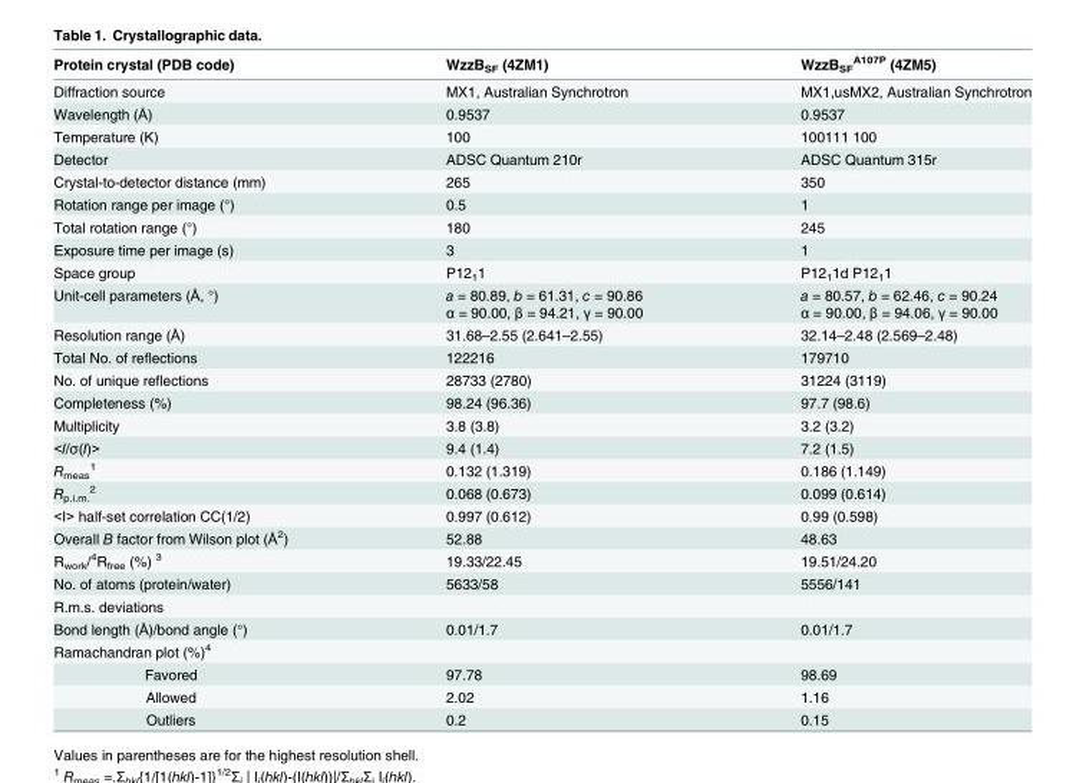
<table><thead><tr><td>Protein crystal (PDB code)</td><td>WzzB<sub>SF</sub> (4ZM1)</td><td>WzzB<sub>SF</sub> <sup>A107P</sup> (4ZM5)</td></tr></thead><tbody><tr><td>Diffraction source</td><td>MX1, Australian Synchrotron</td><td>MX1,usMX2, Australian Synchrotron</td></tr><tr><td>Wavelength (Å)</td><td>0.9537</td><td>0.9537</td></tr><tr><td>Temperature (K)</td><td>100</td><td>100111 100</td></tr><tr><td>Detector</td><td>ADSC Quantum 210r</td><td>ADSC Quantum 315r</td></tr><tr><td>Crystal-to-detector distance (mm)</td><td>265</td><td>350</td></tr><tr><td>Rotation range per image (°)</td><td>0.5</td><td>1</td></tr><tr><td>Total rotation range (°)</td><td>180</td><td>245</td></tr><tr><td>Exposure time per image (s)</td><td>3</td><td>1</td></tr><tr><td>Space group</td><td>P12<sub>1</sub>1</td><td>P12<sub>1</sub>1d P12<sub>1</sub>1</td></tr><tr><td>Unit-cell parameters (Å, °)</td><td>a = 80.89, b = 61.31, c = 90.86 α = 90.00, β = 94.21, γ = 90.00</td><td>a = 80.57, b = 62.46, c = 90.24 α = 90.00, β = 94.06, γ = 90.00</td></tr><tr><td>Resolution range (Å)</td><td>31.68–2.55 (2.641–2.55)</td><td>32.14–2.48 (2.569–2.48)</td></tr><tr><td>Total No. of reflections</td><td>122216</td><td>179710</td></tr><tr><td>No. of unique reflections</td><td>28733 (2780)</td><td>31224 (3119)</td></tr><tr><td>Completeness (%)</td><td>98.24 (96.36)</td><td>97.7 (98.6)</td></tr><tr><td>Multiplicity</td><td>3.8 (3.8)</td><td>3.2 (3.2)</td></tr><tr><td>&lt;I/σ(I)&gt;</td><td>9.4 (1.4)</td><td>7.2 (1.5)</td></tr><tr><td>R<sub>meas</sub> <sup>1</sup></td><td>0.132 (1.319)</td><td>0.186 (1.149)</td></tr><tr><td>R<sub>p.i.m.</sub> <sup>2</sup></td><td>0.068 (0.673)</td><td>0.099 (0.614)</td></tr><tr><td>&lt;I&gt; half-set correlation CC(1/2)</td><td>0.997 (0.612)</td><td>0.99 (0.598)</td></tr><tr><td>Overall B factor from Wilson plot (Å<sup>2</sup>)</td><td>52.88</td><td>48.63</td></tr><tr><td>R<sub>work</sub>/<sup>4</sup>R<sub>free</sub> (%) <sup>3</sup></td><td>19.33/22.45</td><td>19.51/24.20</td></tr><tr><td>No. of atoms (protein/water)</td><td>5633/58</td><td>5556/141</td></tr><tr><td colspan="3">R.m.s. deviations</td></tr><tr><td>Bond length (Å)/bond angle (°)</td><td>0.01/1.7</td><td>0.01/1.7</td></tr><tr><td colspan="3">Ramachandran plot (%)<sup>4</sup></td></tr><tr><td>Favored</td><td>97.78</td><td>98.69</td></tr><tr><td>Allowed</td><td>2.02</td><td>1.16</td></tr><tr><td>Outliers</td><td>0.2</td><td>0.15</td></tr></tbody></table>